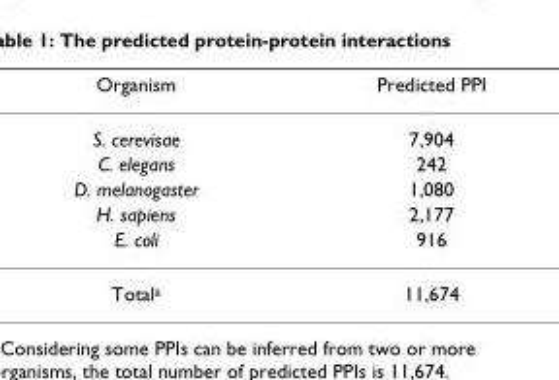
<table><thead><tr><td>Organism</td><td>Predicted PPI</td></tr></thead><tbody><tr><td>S. cerevisae</td><td>7,904</td></tr><tr><td>C. elegans</td><td>242</td></tr><tr><td>D. melanogaster</td><td>1,080</td></tr><tr><td>H. sapiens</td><td>2,177</td></tr><tr><td>E. coli</td><td>916</td></tr><tr><td>Total<sup>a</sup></td><td>11,674</td></tr></tbody></table>